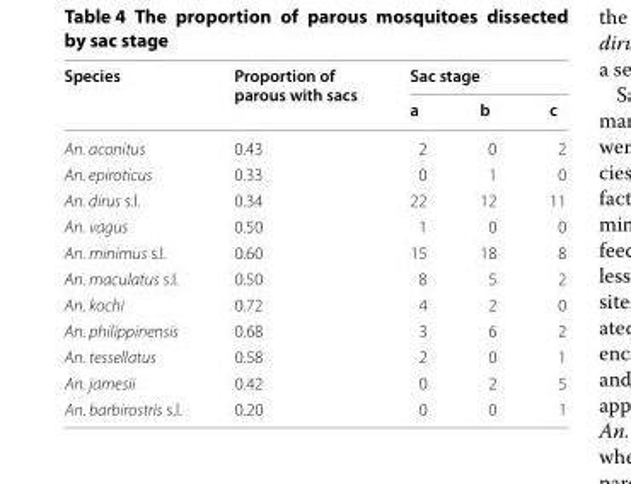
<table><thead><tr><td rowspan="2">Species</td><td rowspan="2">Proportion of parous with sacs</td><td colspan="3">Sac stage</td></tr><tr><td>a</td><td>b</td><td>c</td></tr></thead><tbody><tr><td>An. aconitus</td><td>0.43</td><td>2</td><td>0</td><td>2</td></tr><tr><td>An. epiroticus</td><td>0.33</td><td>0</td><td>1</td><td>0</td></tr><tr><td>An. dirus s.l.</td><td>0.34</td><td>22</td><td>12</td><td>11</td></tr><tr><td>An. vagus</td><td>0.50</td><td>1</td><td>0</td><td>0</td></tr><tr><td>An. minimus s.l.</td><td>0.60</td><td>15</td><td>18</td><td>8</td></tr><tr><td>An. maculatus s.l.</td><td>0.50</td><td>8</td><td>5</td><td>2</td></tr><tr><td>An. kochi</td><td>0.72</td><td>4</td><td>2</td><td>0</td></tr><tr><td>An. philippinensis</td><td>0.68</td><td>3</td><td>6</td><td>2</td></tr><tr><td>An. tessellatus</td><td>0.58</td><td>2</td><td>0</td><td>1</td></tr><tr><td>An. jamesii</td><td>0.42</td><td>0</td><td>2</td><td>5</td></tr><tr><td>An. barbirostris s.l.</td><td>0.20</td><td>0</td><td>0</td><td>1</td></tr></tbody></table>